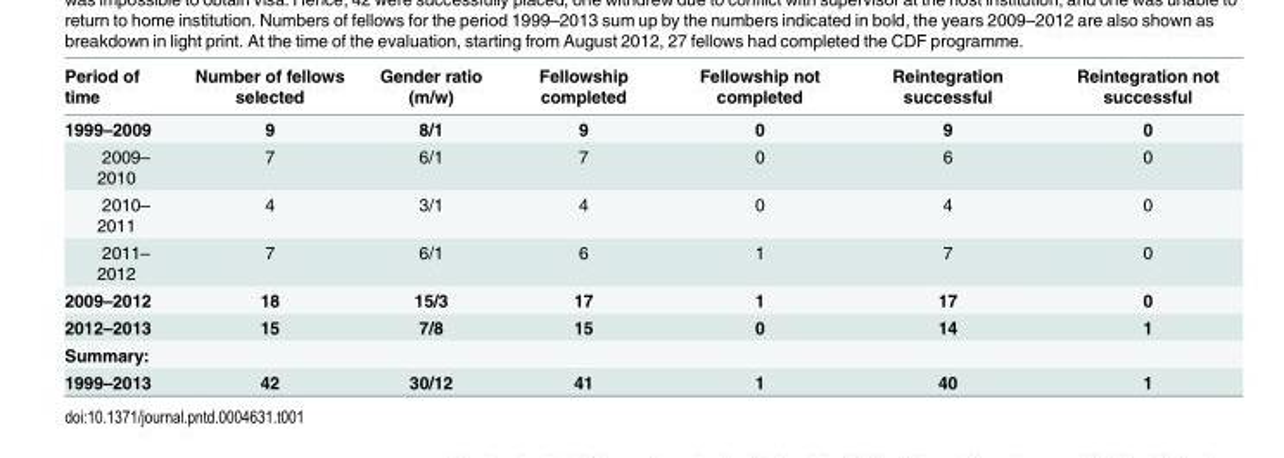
<table><thead><tr><td>Period of time</td><td>Number of fellows selected</td><td>Gender ratio (m/w)</td><td>Fellowship completed</td><td>Fellowship not completed</td><td>Reintegration successful</td><td>Reintegration not successful</td></tr></thead><tbody><tr><td>1999–2009</td><td>9</td><td>8/1</td><td>9</td><td>0</td><td>9</td><td>0</td></tr><tr><td>2009– 2010</td><td>7</td><td>6/1</td><td>7</td><td>0</td><td>6</td><td>0</td></tr><tr><td>2010– 2011</td><td>4</td><td>3/1</td><td>4</td><td>0</td><td>4</td><td>0</td></tr><tr><td>2011– 2012</td><td>7</td><td>6/1</td><td>6</td><td>1</td><td>7</td><td>0</td></tr><tr><td>2009–2012</td><td>18</td><td>15/3</td><td>17</td><td>1</td><td>17</td><td>0</td></tr><tr><td>2012–2013</td><td>15</td><td>7/8</td><td>15</td><td>0</td><td>14</td><td>1</td></tr><tr><td colspan="7">Summary:</td></tr><tr><td>1999–2013</td><td>42</td><td>30/12</td><td>41</td><td>1</td><td>40</td><td>1</td></tr></tbody></table>